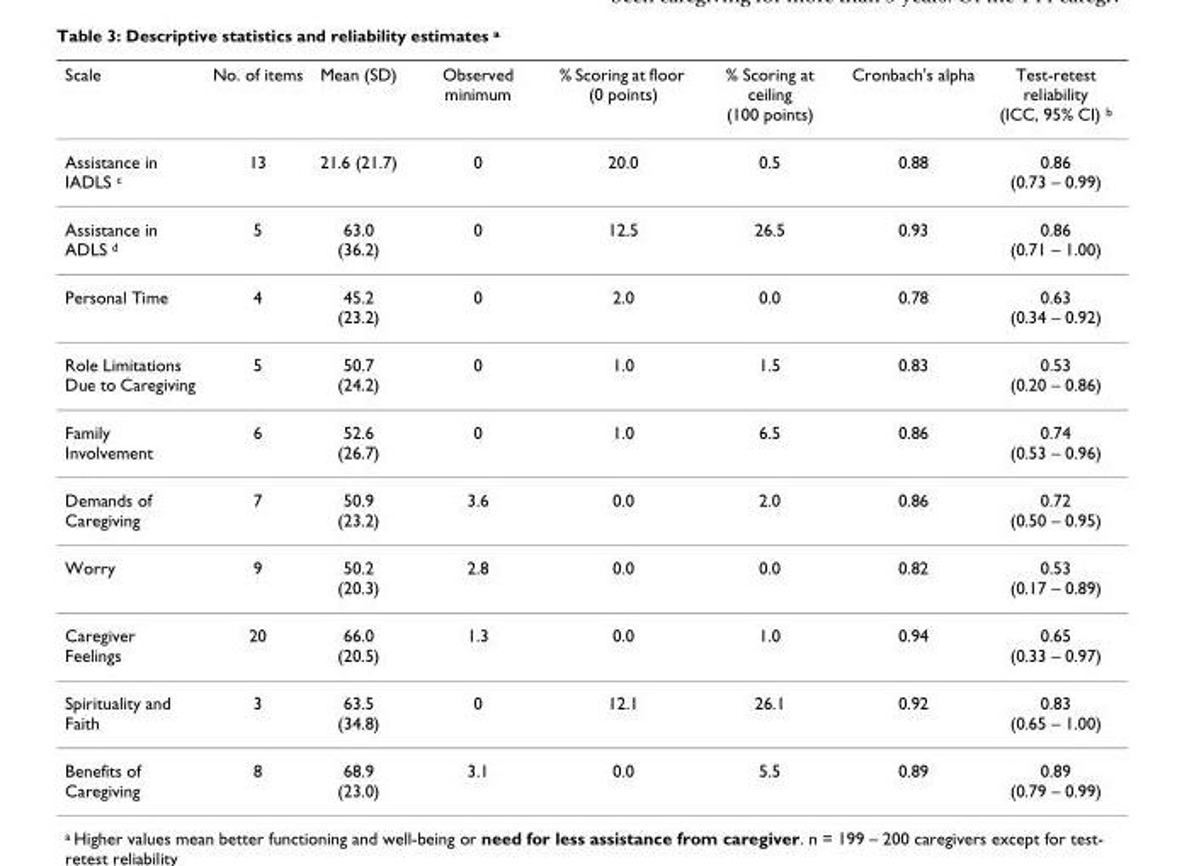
<table><thead><tr><td>Scale</td><td>No. of items</td><td>Mean (SD)</td><td>Observed minimum</td><td>% Scoring at floor (0 points)</td><td>% Scoring at ceiling (100 points)</td><td>Cronbach&#x27;s alpha</td><td>Test-retest reliability (ICC, 95% CI) <sup>b</sup></td></tr></thead><tbody><tr><td>Assistance in IADLS <sup>c</sup></td><td>13</td><td>21.6 (21.7)</td><td>0</td><td>20.0</td><td>0.5</td><td>0.88</td><td>0.86 (0.73 – 0.99)</td></tr><tr><td>Assistance in ADLS <sup>d</sup></td><td>5</td><td>63.0 (36.2)</td><td>0</td><td>12.5</td><td>26.5</td><td>0.93</td><td>0.86 (0.71 – 1.00)</td></tr><tr><td>Personal Time</td><td>4</td><td>45.2 (23.2)</td><td>0</td><td>2.0</td><td>0.0</td><td>0.78</td><td>0.63 (0.34 – 0.92)</td></tr><tr><td>Role Limitations Due to Caregiving</td><td>5</td><td>50.7 (24.2)</td><td>0</td><td>1.0</td><td>1.5</td><td>0.83</td><td>0.53 (0.20 – 0.86)</td></tr><tr><td>Family Involvement</td><td>6</td><td>52.6 (26.7)</td><td>0</td><td>1.0</td><td>6.5</td><td>0.86</td><td>0.74 (0.53 – 0.96)</td></tr><tr><td>Demands of Caregiving</td><td>7</td><td>50.9 (23.2)</td><td>3.6</td><td>0.0</td><td>2.0</td><td>0.86</td><td>0.72 (0.50 – 0.95)</td></tr><tr><td>Worry</td><td>9</td><td>50.2 (20.3)</td><td>2.8</td><td>0.0</td><td>0.0</td><td>0.82</td><td>0.53 (0.17 – 0.89)</td></tr><tr><td>Caregiver Feelings</td><td>20</td><td>66.0 (20.5)</td><td>1.3</td><td>0.0</td><td>1.0</td><td>0.94</td><td>0.65 (0.33 – 0.97)</td></tr><tr><td>Spirituality and Faith</td><td>3</td><td>63.5 (34.8)</td><td>0</td><td>12.1</td><td>26.1</td><td>0.92</td><td>0.83 (0.65 – 1.00)</td></tr><tr><td>Benefits of Caregiving</td><td>8</td><td>68.9 (23.0)</td><td>3.1</td><td>0.0</td><td>5.5</td><td>0.89</td><td>0.89 (0.79 – 0.99)</td></tr></tbody></table>